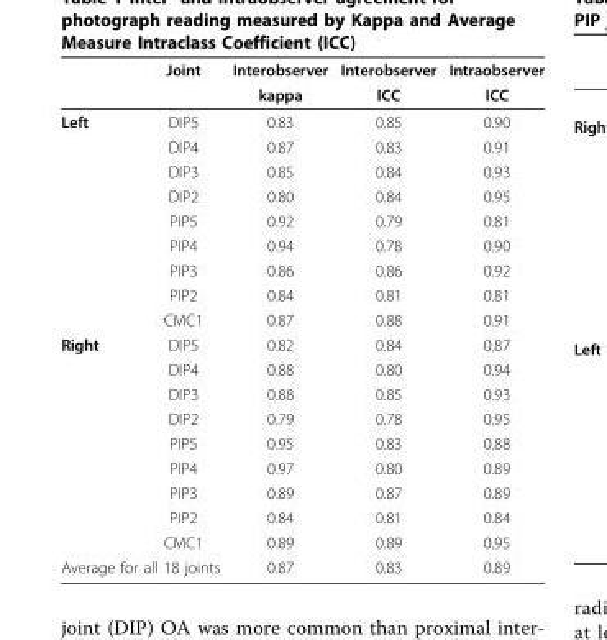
<table><thead><tr><td rowspan="2"></td><td rowspan="2">Joint</td><td rowspan="2">Interobserver kappa</td><td rowspan="2">Interobserver ICC</td><td rowspan="2">Intraobserver ICC</td></tr><tr></tr></thead><tbody><tr><td rowspan="9">Left</td><td>DIP5</td><td>0.83</td><td>0.85</td><td>0.90</td></tr><tr><td>DIP4</td><td>0.87</td><td>0.83</td><td>0.91</td></tr><tr><td>DIP3</td><td>0.85</td><td>0.84</td><td>0.93</td></tr><tr><td>DIP2</td><td>0.80</td><td>0.84</td><td>0.95</td></tr><tr><td>PIP5</td><td>0.92</td><td>0.79</td><td>0.81</td></tr><tr><td>PIP4</td><td>0.94</td><td>0.78</td><td>0.90</td></tr><tr><td>PIP3</td><td>0.86</td><td>0.86</td><td>0.92</td></tr><tr><td>PIP2</td><td>0.84</td><td>0.81</td><td>0.81</td></tr><tr><td>CMC1</td><td>0.87</td><td>0.88</td><td>0.91</td></tr><tr><td rowspan="9">Right</td><td>DIP5</td><td>0.82</td><td>0.84</td><td>0.87</td></tr><tr><td>DIP4</td><td>0.88</td><td>0.80</td><td>0.94</td></tr><tr><td>DIP3</td><td>0.88</td><td>0.85</td><td>0.93</td></tr><tr><td>DIP2</td><td>0.79</td><td>0.78</td><td>0.95</td></tr><tr><td>PIP5</td><td>0.95</td><td>0.83</td><td>0.88</td></tr><tr><td>PIP4</td><td>0.97</td><td>0.80</td><td>0.89</td></tr><tr><td>PIP3</td><td>0.89</td><td>0.87</td><td>0.89</td></tr><tr><td>PIP2</td><td>0.84</td><td>0.81</td><td>0.84</td></tr><tr><td>CMC1</td><td>0.89</td><td>0.89</td><td>0.95</td></tr><tr><td colspan="2">Average for all 18 joints</td><td>0.87</td><td>0.83</td><td>0.89</td></tr></tbody></table>